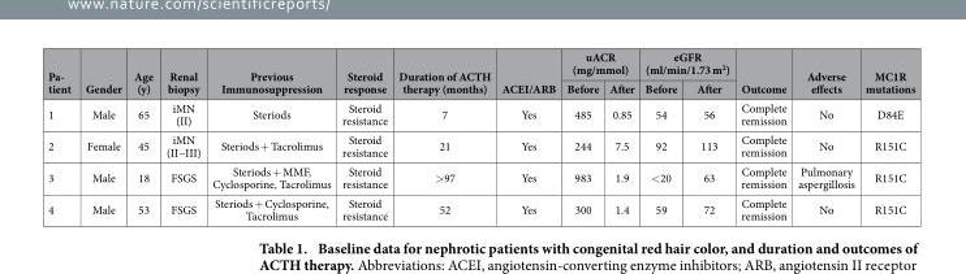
<table><thead><tr><td rowspan="2">Pa- tient</td><td rowspan="2">Gender</td><td rowspan="2">Age (y)</td><td rowspan="2">Renal biopsy</td><td rowspan="2">Previous Immunosuppression</td><td rowspan="2">Steroid response</td><td rowspan="2">Duration of ACTH therapy (months)</td><td rowspan="2">ACEI/ARB</td><td colspan="2">uACR (mg/mmol)</td><td colspan="2">eGFR (ml/min/1.73 m<sup>2</sup>)</td><td rowspan="2">Outcome</td><td rowspan="2">Adverse effects</td><td rowspan="2">MC1R mutations</td></tr><tr><td>Before</td><td>After</td><td>Before</td><td>After</td></tr></thead><tbody><tr><td>1</td><td>Male</td><td>65</td><td>iMN (II)</td><td>Steriods</td><td>Steroid resistance</td><td>7</td><td>Yes</td><td>485</td><td>0.85</td><td>54</td><td>56</td><td>Complete remission</td><td>No</td><td>D84E</td></tr><tr><td>2</td><td>Female</td><td>45</td><td>iMN (II~III)</td><td>Steriods + Tacrolimus</td><td>Steroid resistance</td><td>21</td><td>Yes</td><td>244</td><td>7.5</td><td>92</td><td>113</td><td>Complete remission</td><td>No</td><td>R151C</td></tr><tr><td>3</td><td>Male</td><td>18</td><td>FSGS</td><td>Steriods + MMF, Cyclosporine, Tacrolimus</td><td>Steroid resistance</td><td>&gt; 97</td><td>Yes</td><td>983</td><td>1.9</td><td>&lt; 20</td><td>63</td><td>Complete remission</td><td>Pulmonary aspergillosis</td><td>R151C</td></tr><tr><td>4</td><td>Male</td><td>53</td><td>FSGS</td><td>Steriods + Cyclosporine, Tacrolimus</td><td>Steroid resistance</td><td>52</td><td>Yes</td><td>300</td><td>1.4</td><td>59</td><td>72</td><td>Complete remission</td><td>No</td><td>R151C</td></tr></tbody></table>